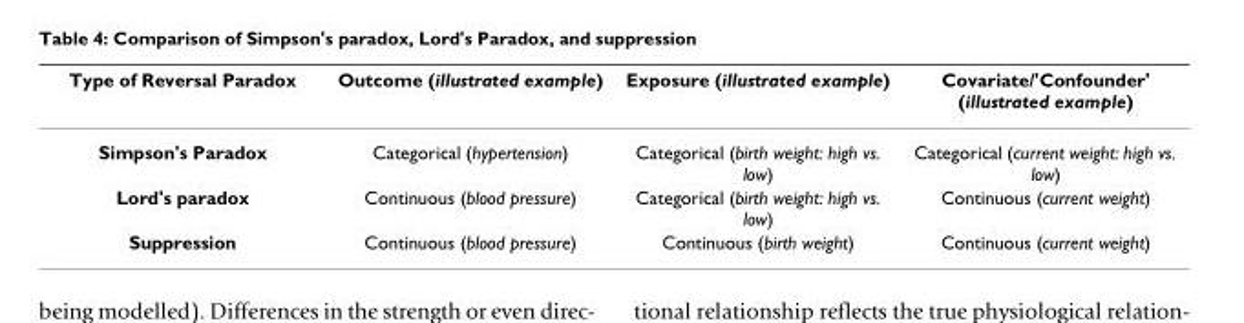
<table><thead><tr><td>Type of Reversal Paradox</td><td>Outcome (illustrated example)</td><td>Exposure (illustrated example)</td><td>Covariate/&#x27;Confounder&#x27; (illustrated example)</td></tr></thead><tbody><tr><td>Simpson&#x27;s Paradox</td><td>Categorical (hypertension)</td><td>Categorical (birth weight: high vs. low)</td><td>Categorical (current weight: high vs. low)</td></tr><tr><td>Lord&#x27;s paradox</td><td>Continuous (blood pressure)</td><td>Categorical (birth weight: high vs. low)</td><td>Continuous (current weight)</td></tr><tr><td>Suppression</td><td>Continuous (blood pressure)</td><td>Continuous (birth weight)</td><td>Continuous (current weight)</td></tr></tbody></table>